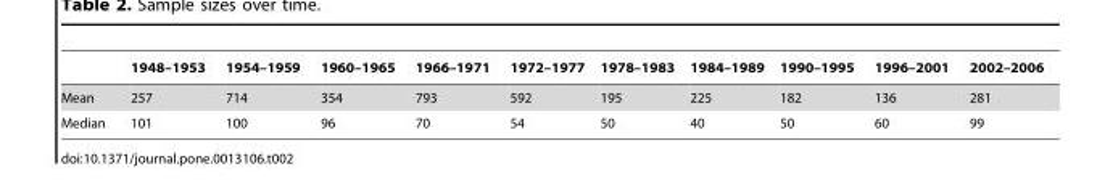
<table><thead><tr><td></td><td>1948–1953</td><td>1954–1959</td><td>1960–1965</td><td>1966–1971</td><td>1972–1977</td><td>1978–1983</td><td>1984–1989</td><td>1990–1995</td><td>1996–2001</td><td>2002–2006</td></tr></thead><tbody><tr><td>Mean</td><td>257</td><td>714</td><td>354</td><td>793</td><td>592</td><td>195</td><td>225</td><td>182</td><td>136</td><td>281</td></tr><tr><td>Median</td><td>101</td><td>100</td><td>96</td><td>70</td><td>54</td><td>50</td><td>40</td><td>50</td><td>60</td><td>99</td></tr></tbody></table>